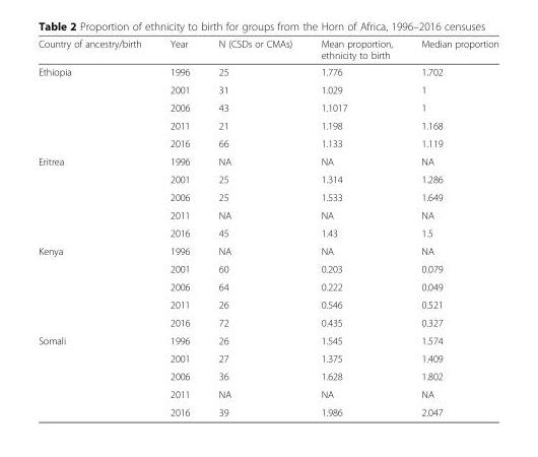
<table><thead><tr><td>Country of ancestry/birth</td><td>Year</td><td>N (CSDs or CMAs)</td><td>Mean proportion, ethnicity to birth</td><td>Median proportion</td></tr></thead><tbody><tr><td rowspan="5">Ethiopia</td><td>1996</td><td>25</td><td>1.776</td><td>1.702</td></tr><tr><td>2001</td><td>31</td><td>1.029</td><td>1</td></tr><tr><td>2006</td><td>43</td><td>1.1017</td><td>1</td></tr><tr><td>2011</td><td>21</td><td>1.198</td><td>1.168</td></tr><tr><td>2016</td><td>66</td><td>1.133</td><td>1.119</td></tr><tr><td rowspan="5">Eritrea</td><td>1996</td><td>NA</td><td>NA</td><td>NA</td></tr><tr><td>2001</td><td>25</td><td>1.314</td><td>1.286</td></tr><tr><td>2006</td><td>25</td><td>1.533</td><td>1.649</td></tr><tr><td>2011</td><td>NA</td><td>NA</td><td>NA</td></tr><tr><td>2016</td><td>45</td><td>1.43</td><td>1.5</td></tr><tr><td rowspan="5">Kenya</td><td>1996</td><td>NA</td><td>NA</td><td>NA</td></tr><tr><td>2001</td><td>60</td><td>0.203</td><td>0.079</td></tr><tr><td>2006</td><td>64</td><td>0.222</td><td>0.049</td></tr><tr><td>2011</td><td>26</td><td>0.546</td><td>0.521</td></tr><tr><td>2016</td><td>72</td><td>0.435</td><td>0.327</td></tr><tr><td rowspan="5">Somali</td><td>1996</td><td>26</td><td>1.545</td><td>1.574</td></tr><tr><td>2001</td><td>27</td><td>1.375</td><td>1.409</td></tr><tr><td>2006</td><td>36</td><td>1.628</td><td>1.802</td></tr><tr><td>2011</td><td>NA</td><td>NA</td><td>NA</td></tr><tr><td>2016</td><td>39</td><td>1.986</td><td>2.047</td></tr></tbody></table>